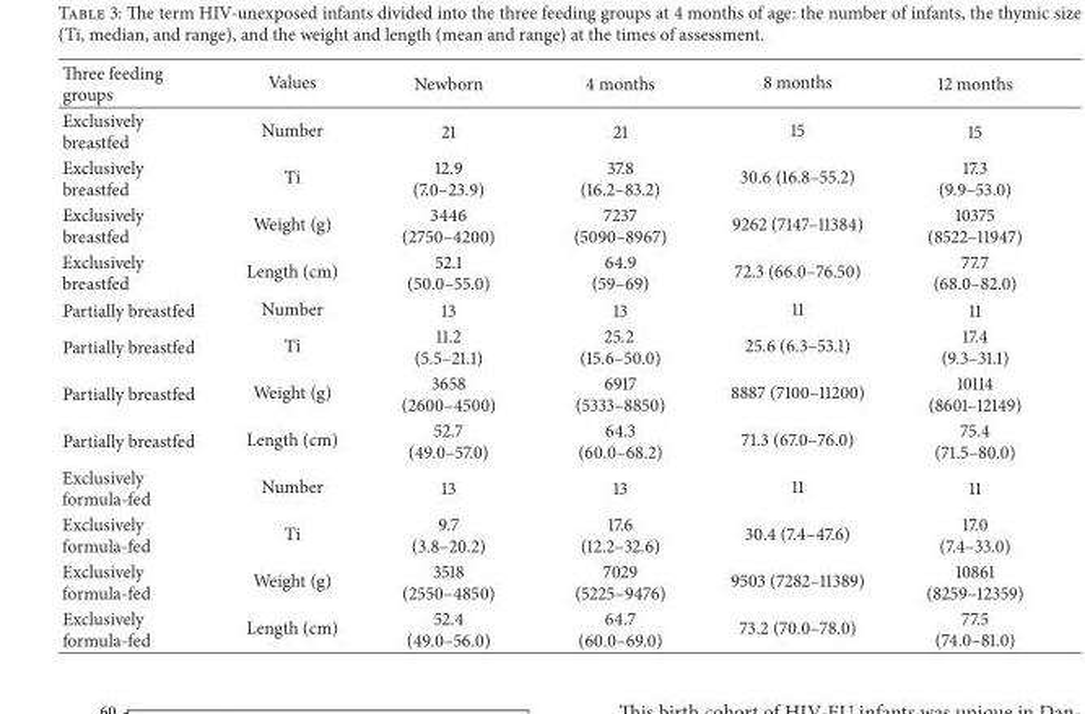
<table><thead><tr><td>Three feeding groups</td><td>Values</td><td>Newborn</td><td>4 months</td><td>8 months</td><td>12 months</td></tr></thead><tbody><tr><td>Exclusively breastfed</td><td>Number</td><td>21</td><td>21</td><td>15</td><td>15</td></tr><tr><td>Exclusively breastfed</td><td>Ti</td><td>12.9 (7.0–23.9)</td><td>37.8 (16.2–83.2)</td><td>30.6 (16.8–55.2)</td><td>17.3 (9.9–53.0)</td></tr><tr><td>Exclusively breastfed</td><td>Weight (g)</td><td>3446 (2750–4200)</td><td>7237 (5090–8967)</td><td>9262 (7147–11384)</td><td>10375 (8522–11947)</td></tr><tr><td>Exclusively breastfed</td><td>Length (cm)</td><td>52.1 (50.0–55.0)</td><td>64.9 (59–69)</td><td>72.3 (66.0–76.50)</td><td>77.7 (68.0–82.0)</td></tr><tr><td>Partially breastfed</td><td>Number</td><td>13</td><td>13</td><td>11</td><td>11</td></tr><tr><td>Partially breastfed</td><td>Ti</td><td>11.2 (5.5–21.1)</td><td>25.2 (15.6–50.0)</td><td>25.6 (6.3–53.1)</td><td>17.4 (9.3–31.1)</td></tr><tr><td>Partially breastfed</td><td>Weight (g)</td><td>3658 (2600–4500)</td><td>6917 (5333–8850)</td><td>8887 (7100–11200)</td><td>10114 (8601–12149)</td></tr><tr><td>Partially breastfed</td><td>Length (cm)</td><td>52.7 (49.0–57.0)</td><td>64.3 (60.0–68.2)</td><td>71.3 (67.0–76.0)</td><td>75.4 (71.5–80.0)</td></tr><tr><td>Exclusively formula-fed</td><td>Number</td><td>13</td><td>13</td><td>11</td><td>11</td></tr><tr><td>Exclusively formula-fed</td><td>Ti</td><td>9.7 (3.8–20.2)</td><td>17.6 (12.2–32.6)</td><td>30.4 (7.4–47.6)</td><td>17.0 (7.4–33.0)</td></tr><tr><td>Exclusively formula-fed</td><td>Weight (g)</td><td>3518 (2550–4850)</td><td>7029 (5225–9476)</td><td>9503 (7282–11389)</td><td>10861 (8259–12359)</td></tr><tr><td>Exclusively formula-fed</td><td>Length (cm)</td><td>52.4 (49.0–56.0)</td><td>64.7 (60.0–69.0)</td><td>73.2 (70.0–78.0)</td><td>77.5 (74.0–81.0)</td></tr></tbody></table>